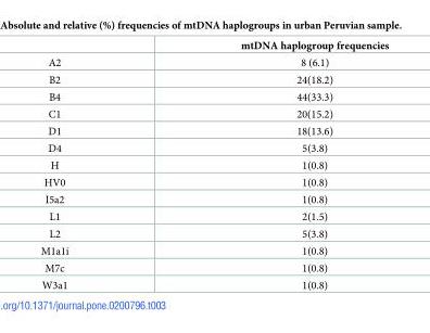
<table><thead><tr><td></td><td>mtDNA haplogroup frequencies</td></tr></thead><tbody><tr><td>A2</td><td>8 (6.1)</td></tr><tr><td>B2</td><td>24(18.2)</td></tr><tr><td>B4</td><td>44(33.3)</td></tr><tr><td>C1</td><td>20(15.2)</td></tr><tr><td>D1</td><td>18(13.6)</td></tr><tr><td>D4</td><td>5(3.8)</td></tr><tr><td>H</td><td>1(0.8)</td></tr><tr><td>HV0</td><td>1(0.8)</td></tr><tr><td>I5a2</td><td>1(0.8)</td></tr><tr><td>L1</td><td>2(1.5)</td></tr><tr><td>L2</td><td>5(3.8)</td></tr><tr><td>M1a1i</td><td>1(0.8)</td></tr><tr><td>M7c</td><td>1(0.8)</td></tr><tr><td>W3a1</td><td>1(0.8)</td></tr></tbody></table>